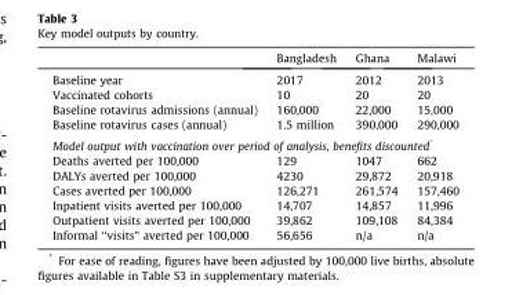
<table><thead><tr><td></td><td>Bangladesh</td><td>Ghana</td><td>Malawi</td></tr></thead><tbody><tr><td>Baseline year</td><td>2017</td><td>2012</td><td>2013</td></tr><tr><td>Vaccinated cohorts</td><td>10</td><td>20</td><td>20</td></tr><tr><td>Baseline rotavirus admissions (annual)</td><td>160,000</td><td>22,000</td><td>15,000</td></tr><tr><td>Baseline rotavirus cases (annual)</td><td>1.5 million</td><td>390,000</td><td>290,000</td></tr><tr><td colspan="4">Model output with vaccination over period of analysis, benefits discounted*</td></tr><tr><td>Deaths averted per 100,000</td><td>129</td><td>1047</td><td>662</td></tr><tr><td>DALYs averted per 100,000</td><td>4230</td><td>29,872</td><td>20,918</td></tr><tr><td>Cases averted per 100,000</td><td>126,271</td><td>261,574</td><td>157,460</td></tr><tr><td>Inpatient visits averted per 100,000</td><td>14,707</td><td>14,857</td><td>11,996</td></tr><tr><td>Outpatient visits averted per 100,000</td><td>39,862</td><td>109,108</td><td>84,384</td></tr><tr><td>Informal ‘‘visits” averted per 100,000</td><td>56,656</td><td>n/a</td><td>n/a</td></tr></tbody></table>